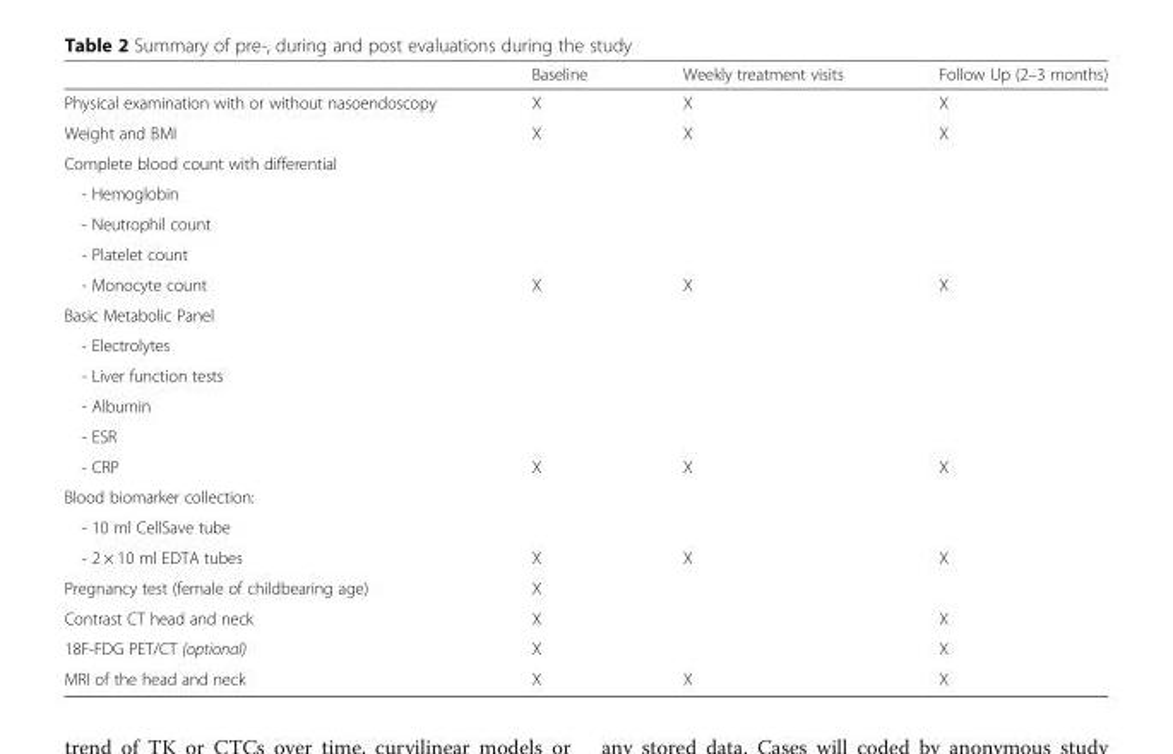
<table><thead><tr><td></td><td>Baseline</td><td>Weekly treatment visits</td><td>Follow Up (2–3 months)</td></tr></thead><tbody><tr><td>Physical examination with or without nasoendoscopy</td><td>X</td><td>X</td><td>X</td></tr><tr><td>Weight and BMI</td><td>X</td><td>X</td><td>X</td></tr><tr><td colspan="4">Complete blood count with differential</td></tr><tr><td colspan="4">- Hemoglobin</td></tr><tr><td colspan="4">- Neutrophil count</td></tr><tr><td colspan="4">- Platelet count</td></tr><tr><td>- Monocyte count</td><td>X</td><td>X</td><td>X</td></tr><tr><td colspan="4">Basic Metabolic Panel</td></tr><tr><td colspan="4">- Electrolytes</td></tr><tr><td colspan="4">- Liver function tests</td></tr><tr><td colspan="4">- Albumin</td></tr><tr><td colspan="4">- ESR</td></tr><tr><td>- CRP</td><td>X</td><td>X</td><td>X</td></tr><tr><td colspan="4">Blood biomarker collection:</td></tr><tr><td colspan="4">- 10 ml CellSave tube</td></tr><tr><td>- 2 × 10 ml EDTA tubes</td><td>X</td><td>X</td><td>X</td></tr><tr><td>Pregnancy test (female of childbearing age)</td><td>X</td><td></td><td></td></tr><tr><td>Contrast CT head and neck</td><td>X</td><td></td><td>X</td></tr><tr><td>18F-FDG PET/CT (optional)</td><td>X</td><td></td><td>X</td></tr><tr><td>MRI of the head and neck</td><td>X</td><td>X</td><td>X</td></tr></tbody></table>